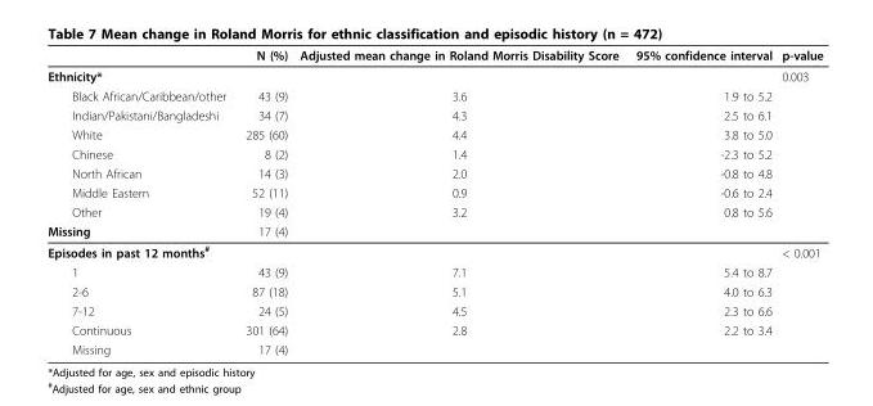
<table><thead><tr><td></td><td>N (%)</td><td>Adjusted mean change in Roland Morris Disability Score</td><td>95% confidence interval</td><td>p-value</td></tr></thead><tbody><tr><td>Ethnicity*</td><td></td><td></td><td></td><td>0.003</td></tr><tr><td>Black African/Caribbean/other</td><td>43 (9)</td><td>3.6</td><td>1.9 to 5.2</td><td></td></tr><tr><td>Indian/Pakistani/Bangladeshi</td><td>34 (7)</td><td>4.3</td><td>2.5 to 6.1</td><td></td></tr><tr><td>White</td><td>285 (60)</td><td>4.4</td><td>3.8 to 5.0</td><td></td></tr><tr><td>Chinese</td><td>8 (2)</td><td>1.4</td><td>-2.3 to 5.2</td><td></td></tr><tr><td>North African</td><td>14 (3)</td><td>2.0</td><td>-0.8 to 4.8</td><td></td></tr><tr><td>Middle Eastern</td><td>52 (11)</td><td>0.9</td><td>-0.6 to 2.4</td><td></td></tr><tr><td>Other</td><td>19 (4)</td><td>3.2</td><td>0.8 to 5.6</td><td></td></tr><tr><td>Missing</td><td>17 (4)</td><td></td><td></td><td></td></tr><tr><td>Episodes in past 12 months<sup>#</sup></td><td></td><td></td><td></td><td>&lt; 0.001</td></tr><tr><td>1</td><td>43 (9)</td><td>7.1</td><td>5.4 to 8.7</td><td></td></tr><tr><td>2-6</td><td>87 (18)</td><td>5.1</td><td>4.0 to 6.3</td><td></td></tr><tr><td>7-12</td><td>24 (5)</td><td>4.5</td><td>2.3 to 6.6</td><td></td></tr><tr><td>Continuous</td><td>301 (64)</td><td>2.8</td><td>2.2 to 3.4</td><td></td></tr><tr><td>Missing</td><td>17 (4)</td><td></td><td></td><td></td></tr></tbody></table>